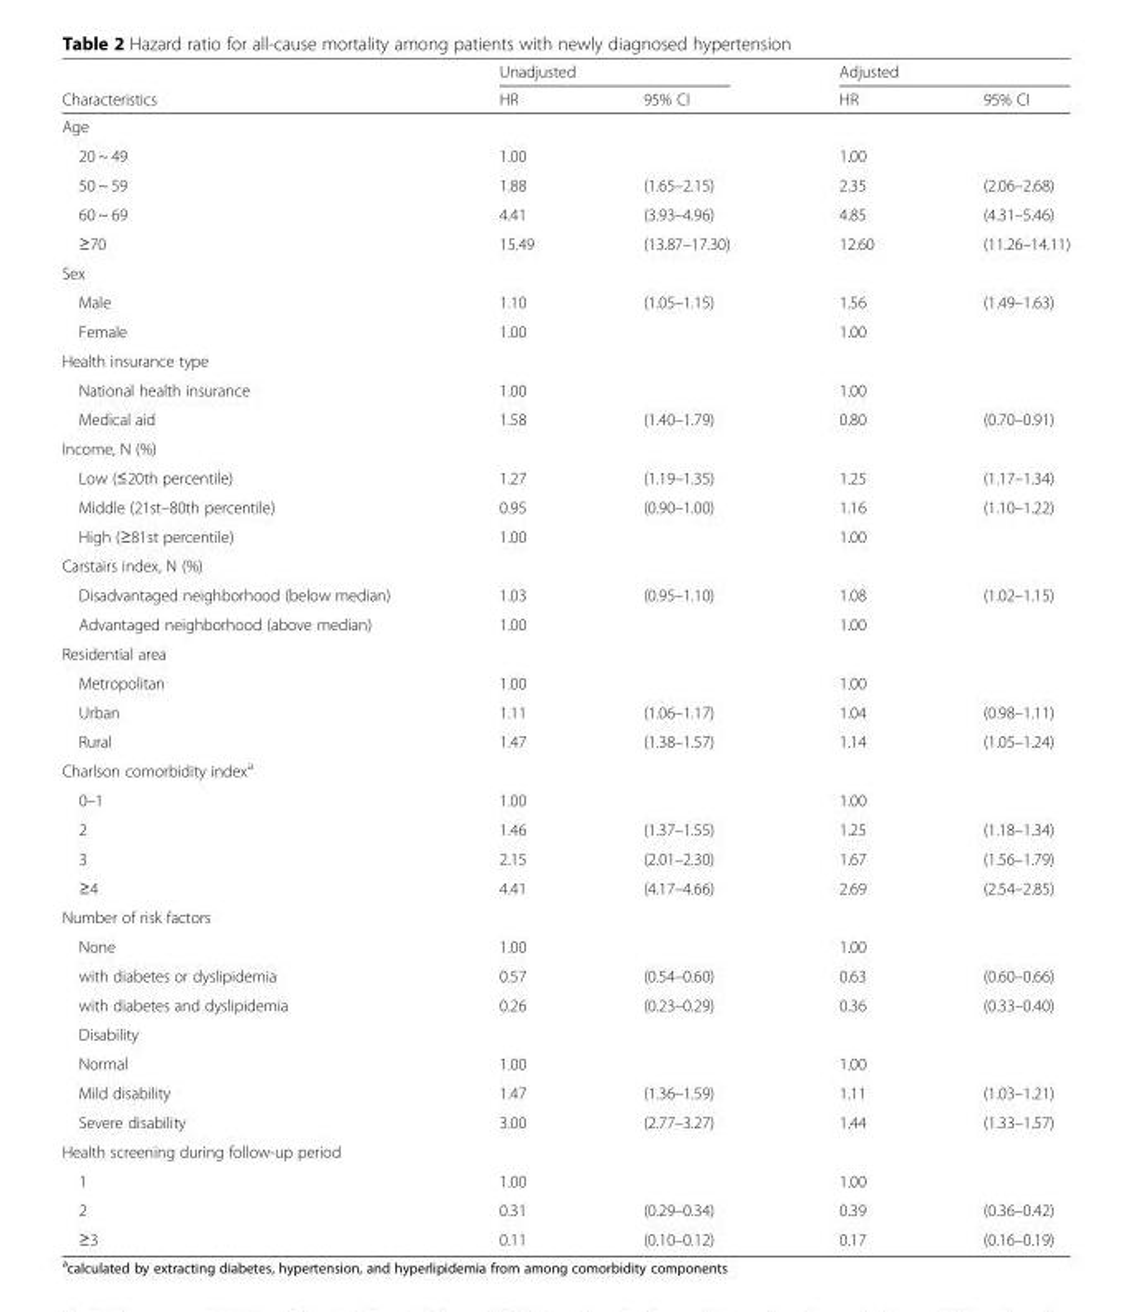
<table><thead><tr><td rowspan="2">Characteristics</td><td colspan="2">Unadjusted</td><td colspan="2">Adjusted</td></tr><tr><td>HR</td><td>95% CI</td><td>HR</td><td>95% CI</td></tr></thead><tbody><tr><td colspan="5">Age</td></tr><tr><td>20 ~ 49</td><td>1.00</td><td></td><td>1.00</td><td></td></tr><tr><td>50 ~ 59</td><td>1.88</td><td>(1.65–2.15)</td><td>2.35</td><td>(2.06–2.68)</td></tr><tr><td>60 ~ 69</td><td>4.41</td><td>(3.93–4.96)</td><td>4.85</td><td>(4.31–5.46)</td></tr><tr><td>≥70</td><td>15.49</td><td>(13.87–17.30)</td><td>12.60</td><td>(11.26–14.11)</td></tr><tr><td colspan="5">Sex</td></tr><tr><td>Male</td><td>1.10</td><td>(1.05–1.15)</td><td>1.56</td><td>(1.49–1.63)</td></tr><tr><td>Female</td><td>1.00</td><td></td><td>1.00</td><td></td></tr><tr><td colspan="5">Health insurance type</td></tr><tr><td>National health insurance</td><td>1.00</td><td></td><td>1.00</td><td></td></tr><tr><td>Medical aid</td><td>1.58</td><td>(1.40–1.79)</td><td>0.80</td><td>(0.70–0.91)</td></tr><tr><td colspan="5">Income, N (%)</td></tr><tr><td>Low (≤20th percentile)</td><td>1.27</td><td>(1.19–1.35)</td><td>1.25</td><td>(1.17–1.34)</td></tr><tr><td>Middle (21st–80th percentile)</td><td>0.95</td><td>(0.90–1.00)</td><td>1.16</td><td>(1.10–1.22)</td></tr><tr><td>High (≥81st percentile)</td><td>1.00</td><td></td><td>1.00</td><td></td></tr><tr><td colspan="5">Carstairs index, N (%)</td></tr><tr><td>Disadvantaged neighborhood (below median)</td><td>1.03</td><td>(0.95–1.10)</td><td>1.08</td><td>(1.02–1.15)</td></tr><tr><td>Advantaged neighborhood (above median)</td><td>1.00</td><td></td><td>1.00</td><td></td></tr><tr><td colspan="5">Residential area</td></tr><tr><td>Metropolitan</td><td>1.00</td><td></td><td>1.00</td><td></td></tr><tr><td>Urban</td><td>1.11</td><td>(1.06–1.17)</td><td>1.04</td><td>(0.98–1.11)</td></tr><tr><td>Rural</td><td>1.47</td><td>(1.38–1.57)</td><td>1.14</td><td>(1.05–1.24)</td></tr><tr><td colspan="5">Charlson comorbidity index<sup>a</sup></td></tr><tr><td>0–1</td><td>1.00</td><td></td><td>1.00</td><td></td></tr><tr><td>2</td><td>1.46</td><td>(1.37–1.55)</td><td>1.25</td><td>(1.18–1.34)</td></tr><tr><td>3</td><td>2.15</td><td>(2.01–2.30)</td><td>1.67</td><td>(1.56–1.79)</td></tr><tr><td>≥4</td><td>4.41</td><td>(4.17–4.66)</td><td>2.69</td><td>(2.54–2.85)</td></tr><tr><td colspan="5">Number of risk factors</td></tr><tr><td>None</td><td>1.00</td><td></td><td>1.00</td><td></td></tr><tr><td>with diabetes or dyslipidemia</td><td>0.57</td><td>(0.54–0.60)</td><td>0.63</td><td>(0.60–0.66)</td></tr><tr><td>with diabetes and dyslipidemia</td><td>0.26</td><td>(0.23–0.29)</td><td>0.36</td><td>(0.33–0.40)</td></tr><tr><td colspan="5">Disability</td></tr><tr><td>Normal</td><td>1.00</td><td></td><td>1.00</td><td></td></tr><tr><td>Mild disability</td><td>1.47</td><td>(1.36–1.59)</td><td>1.11</td><td>(1.03–1.21)</td></tr><tr><td>Severe disability</td><td>3.00</td><td>(2.77–3.27)</td><td>1.44</td><td>(1.33–1.57)</td></tr><tr><td colspan="5">Health screening during follow-up period</td></tr><tr><td>1</td><td>1.00</td><td></td><td>1.00</td><td></td></tr><tr><td>2</td><td>0.31</td><td>(0.29–0.34)</td><td>0.39</td><td>(0.36–0.42)</td></tr><tr><td>≥3</td><td>0.11</td><td>(0.10–0.12)</td><td>0.17</td><td>(0.16–0.19)</td></tr></tbody></table>